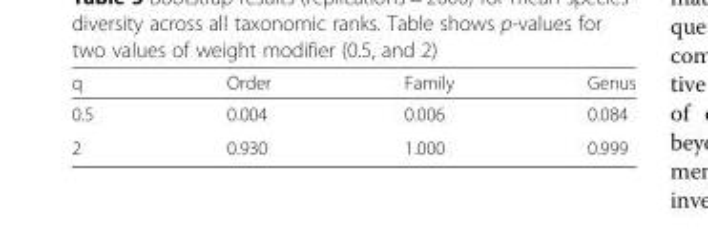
<table><thead><tr><td>q</td><td>Order</td><td>Family</td><td>Genus</td></tr></thead><tbody><tr><td>0.5</td><td>0.004</td><td>0.006</td><td>0.084</td></tr><tr><td>2</td><td>0.930</td><td>1.000</td><td>0.999</td></tr></tbody></table>